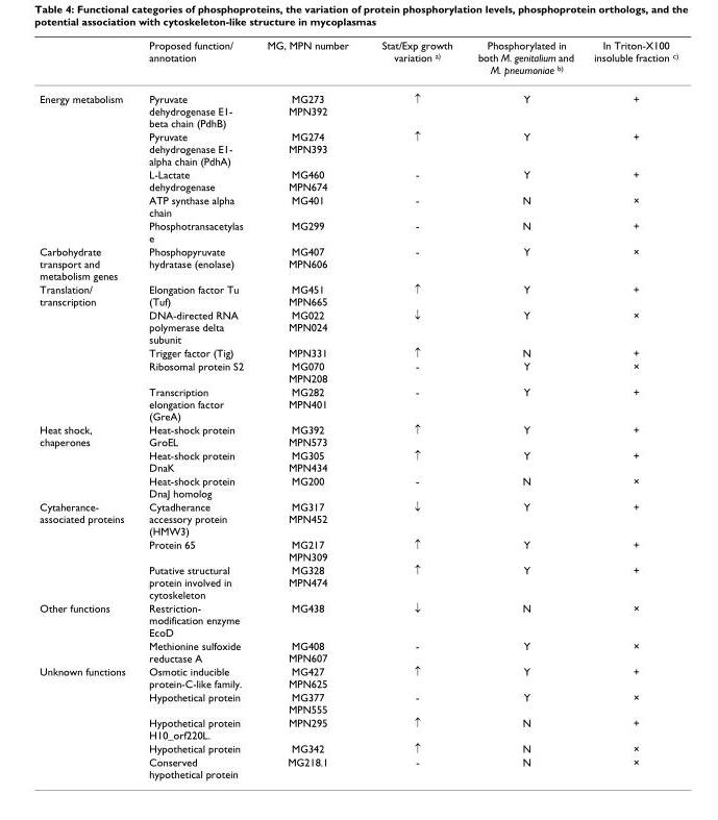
<table><thead><tr><td></td><td>Proposed function/ annotation</td><td>MG, MPN number</td><td>Stat/Exp growth variation <sup>a)</sup></td><td>Phosphorylated in both M. genitalium and M. pneumoniae <sup>b)</sup></td><td>In Triton-X100 insoluble fraction <sup>c)</sup></td></tr></thead><tbody><tr><td rowspan="5">Energy metabolism</td><td>Pyruvate dehydrogenase E1- beta chain (PdhB)</td><td>MG273 MPN392</td><td>↑</td><td>Y</td><td>+</td></tr><tr><td>Pyruvate dehydrogenase E1- alpha chain (PdhA)</td><td>MG274 MPN393</td><td>↑</td><td>Y</td><td>+</td></tr><tr><td>L-Lactate dehydrogenase</td><td>MG460 MPN674</td><td>-</td><td>Y</td><td>+</td></tr><tr><td>ATP synthase alpha chain</td><td>MG401</td><td>-</td><td>N</td><td>×</td></tr><tr><td>Phosphotransacetylas e</td><td>MG299</td><td>-</td><td>N</td><td>+</td></tr><tr><td>Carbohydrate transport and metabolism genes</td><td>Phosphopyruvate hydratase (enolase)</td><td>MG407 MPN606</td><td>-</td><td>Y</td><td>×</td></tr><tr><td rowspan="5">Translation/ transcription</td><td>Elongation factor Tu (Tuf)</td><td>MG451 MPN665</td><td>↑</td><td>Y</td><td>+</td></tr><tr><td>DNA-directed RNA polymerase delta subunit</td><td>MG022 MPN024</td><td>↓</td><td>Y</td><td>×</td></tr><tr><td>Trigger factor (Tig)</td><td>MPN331</td><td>↑</td><td>N</td><td>+</td></tr><tr><td>Ribosomal protein S2</td><td>MG070 MPN208</td><td>-</td><td>Y</td><td>×</td></tr><tr><td>Transcription elongation factor (GreA)</td><td>MG282 MPN401</td><td>-</td><td>Y</td><td>+</td></tr><tr><td rowspan="3">Heat shock, chaperones</td><td>Heat-shock protein GroEL</td><td>MG392 MPN573</td><td>↑</td><td>Y</td><td>+</td></tr><tr><td>Heat-shock protein DnaK</td><td>MG305 MPN434</td><td>↑</td><td>Y</td><td>+</td></tr><tr><td>Heat-shock protein DnaJ homolog</td><td>MG200</td><td>-</td><td>N</td><td>×</td></tr><tr><td rowspan="3">Cytaherance- associated proteins</td><td>Cytadherance accessory protein (HMW3)</td><td>MG317 MPN452</td><td>↓</td><td>Y</td><td>+</td></tr><tr><td>Protein 65</td><td>MG217 MPN309</td><td>↑</td><td>Y</td><td>+</td></tr><tr><td>Putative structural protein involved in cytoskeleton</td><td>MG328 MPN474</td><td>↑</td><td>Y</td><td>+</td></tr><tr><td rowspan="2">Other functions</td><td>Restriction- modification enzyme EcoD</td><td>MG438</td><td>↓</td><td>N</td><td>×</td></tr><tr><td>Methionine sulfoxide reductase A</td><td>MG408 MPN607</td><td>-</td><td>Y</td><td>×</td></tr><tr><td rowspan="5">Unknown functions</td><td>Osmotic inducible protein-C-like family.</td><td>MG427 MPN625</td><td>↑</td><td>Y</td><td>+</td></tr><tr><td>Hypothetical protein</td><td>MG377 MPN555</td><td>-</td><td>Y</td><td>×</td></tr><tr><td>Hypothetical protein H10_orf220L.</td><td>MPN295</td><td>↑</td><td>N</td><td>+</td></tr><tr><td>Hypothetical protein</td><td>MG342</td><td>↑</td><td>N</td><td>×</td></tr><tr><td>Conserved hypothetical protein</td><td>MG218.1</td><td>-</td><td>N</td><td>×</td></tr></tbody></table>